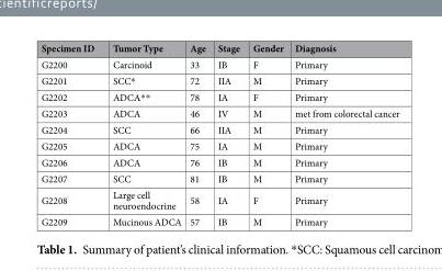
<table><thead><tr><td>Specimen ID</td><td>Tumor Type</td><td>Age</td><td>Stage</td><td>Gender</td><td>Diagnosis</td></tr></thead><tbody><tr><td>G2200</td><td>Carcinoid</td><td>33</td><td>IB</td><td>F</td><td>Primary</td></tr><tr><td>G2201</td><td>SCC*</td><td>72</td><td>IIA</td><td>M</td><td>Primary</td></tr><tr><td>G2202</td><td>ADCA**</td><td>78</td><td>IA</td><td>F</td><td>Primary</td></tr><tr><td>G2203</td><td>ADCA</td><td>46</td><td>IV</td><td>M</td><td>met from colorectal cancer</td></tr><tr><td>G2204</td><td>SCC</td><td>66</td><td>IIA</td><td>M</td><td>Primary</td></tr><tr><td>G2205</td><td>ADCA</td><td>75</td><td>IA</td><td>M</td><td>Primary</td></tr><tr><td>G2206</td><td>ADCA</td><td>76</td><td>IB</td><td>M</td><td>Primary</td></tr><tr><td>G2207</td><td>SCC</td><td>81</td><td>IB</td><td>M</td><td>Primary</td></tr><tr><td>G2208</td><td>Large cell neuroendocrine</td><td>58</td><td>IA</td><td>F</td><td>Primary</td></tr><tr><td>G2209</td><td>Mucinous ADCA</td><td>57</td><td>IB</td><td>M</td><td>Primary</td></tr></tbody></table>